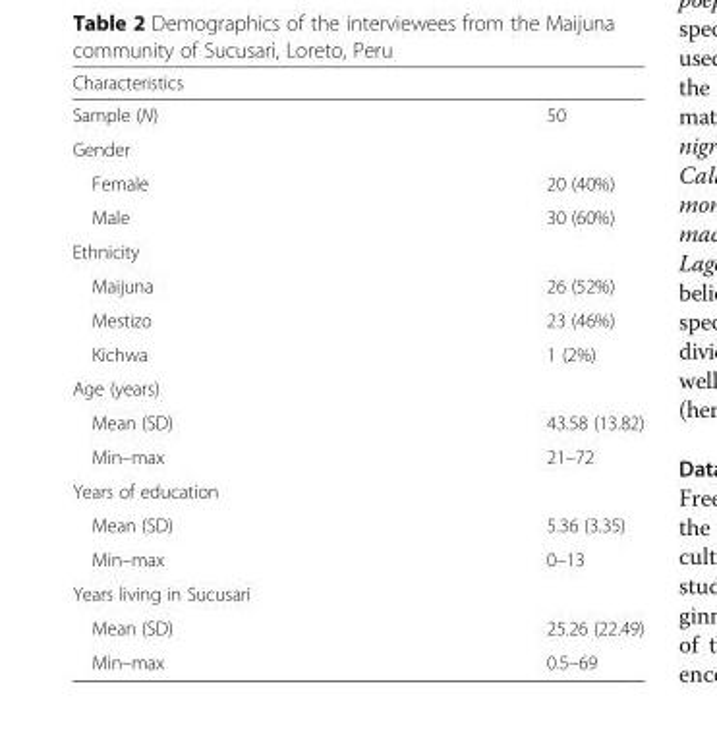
<table><thead><tr><td>Characteristics</td><td></td></tr></thead><tbody><tr><td>Sample (N)</td><td>50</td></tr><tr><td colspan="2">Gender</td></tr><tr><td>Female</td><td>20 (40%)</td></tr><tr><td>Male</td><td>30 (60%)</td></tr><tr><td colspan="2">Ethnicity</td></tr><tr><td>Maijuna</td><td>26 (52%)</td></tr><tr><td>Mestizo</td><td>23 (46%)</td></tr><tr><td>Kichwa</td><td>1 (2%)</td></tr><tr><td colspan="2">Age (years)</td></tr><tr><td>Mean (SD)</td><td>43.58 (13.82)</td></tr><tr><td>Min–max</td><td>21–72</td></tr><tr><td colspan="2">Years of education</td></tr><tr><td>Mean (SD)</td><td>5.36 (3.35)</td></tr><tr><td>Min–max</td><td>0–13</td></tr><tr><td colspan="2">Years living in Sucusari</td></tr><tr><td>Mean (SD)</td><td>25.26 (22.49)</td></tr><tr><td>Min–max</td><td>0.5–69</td></tr></tbody></table>